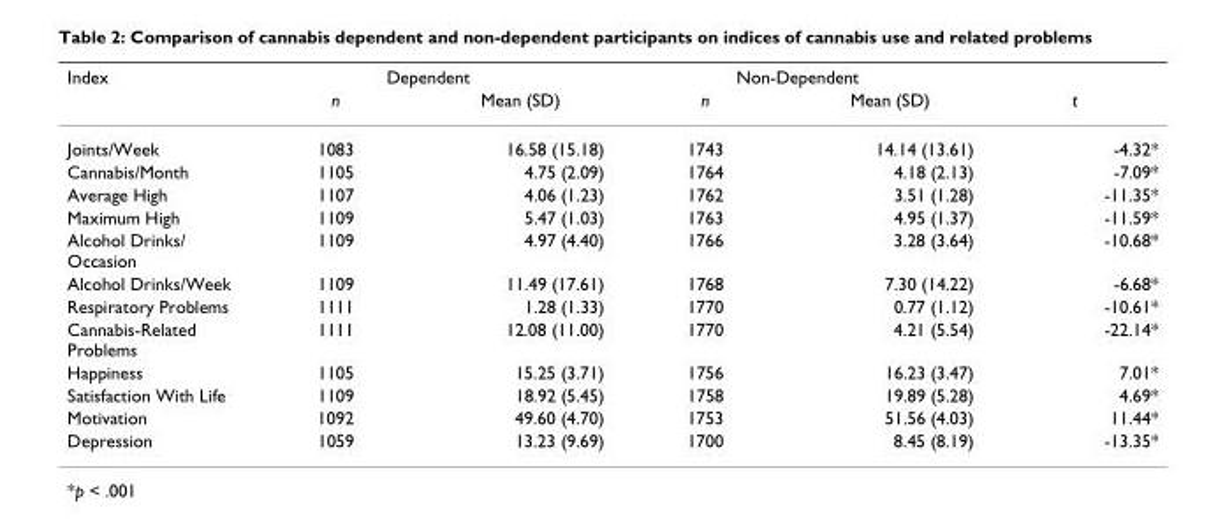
<table><thead><tr><td rowspan="2">Index</td><td colspan="2">Dependent</td><td colspan="2">Non-Dependent</td><td rowspan="2">t</td></tr><tr><td>n</td><td>Mean (SD)</td><td>n</td><td>Mean (SD)</td></tr></thead><tbody><tr><td>Joints/Week</td><td>1083</td><td>16.58 (15.18)</td><td>1743</td><td>14.14 (13.61)</td><td>-4.32*</td></tr><tr><td>Cannabis/Month</td><td>1105</td><td>4.75 (2.09)</td><td>1764</td><td>4.18 (2.13)</td><td>-7.09*</td></tr><tr><td>Average High</td><td>1107</td><td>4.06 (1.23)</td><td>1762</td><td>3.51 (1.28)</td><td>-11.35*</td></tr><tr><td>Maximum High</td><td>1109</td><td>5.47 (1.03)</td><td>1763</td><td>4.95 (1.37)</td><td>-11.59*</td></tr><tr><td>Alcohol Drinks/ Occasion</td><td>1109</td><td>4.97 (4.40)</td><td>1766</td><td>3.28 (3.64)</td><td>-10.68*</td></tr><tr><td>Alcohol Drinks/Week</td><td>1109</td><td>11.49 (17.61)</td><td>1768</td><td>7.30 (14.22)</td><td>-6.68*</td></tr><tr><td>Respiratory Problems</td><td>1111</td><td>1.28 (1.33)</td><td>1770</td><td>0.77 (1.12)</td><td>-10.61*</td></tr><tr><td>Cannabis-Related Problems</td><td>1111</td><td>12.08 (11.00)</td><td>1770</td><td>4.21 (5.54)</td><td>-22.14*</td></tr><tr><td>Happiness</td><td>1105</td><td>15.25 (3.71)</td><td>1756</td><td>16.23 (3.47)</td><td>7.01*</td></tr><tr><td>Satisfaction With Life</td><td>1109</td><td>18.92 (5.45)</td><td>1758</td><td>19.89 (5.28)</td><td>4.69*</td></tr><tr><td>Motivation</td><td>1092</td><td>49.60 (4.70)</td><td>1753</td><td>51.56 (4.03)</td><td>11.44*</td></tr><tr><td>Depression</td><td>1059</td><td>13.23 (9.69)</td><td>1700</td><td>8.45 (8.19)</td><td>-13.35*</td></tr></tbody></table>